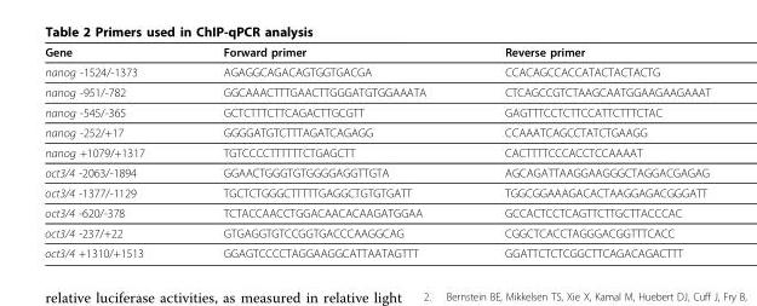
<table><thead><tr><td>Gene</td><td>Forward primer</td><td>Reverse primer</td></tr></thead><tbody><tr><td>nanog -1524/-1373</td><td>AGAGGCAGACAGTGGTGACGA</td><td>CCACAGCCACCATACTACTACTG</td></tr><tr><td>nanog -951/-782</td><td>GGCAAACTTTGAACTTGGGATGTGGAAATA</td><td>CTCAGCCGTCTAAGCAATGGAAGAAGAAAT</td></tr><tr><td>nanog -545/-365</td><td>GCTCTTTCTTCAGACTTGCGTT</td><td>GAGTTTCCTCTTCCATTCTTTCTAC</td></tr><tr><td>nanog -252/+17</td><td>GGGGATGTCTTTAGATCAGAGG</td><td>CCAAATCAGCCTATCTGAAGG</td></tr><tr><td>nanog +1079/+1317</td><td>TGTCCCCTTTTTTCTGAGCTT</td><td>CACTTTTCCCACCTCCAAAAT</td></tr><tr><td>oct3/4 -2063/-1894</td><td>GGAACTGGGTGTGGGGAGGTTGTA</td><td>AGCAGATTAAGGAAGGGCTAGGACGAGAG</td></tr><tr><td>oct3/4 -1377/-1129</td><td>TGCTCTGGGCTTTTTGAGGCTGTGTGATT</td><td>TGGCGGAAAGACACTAAGGAGACGGGATT</td></tr><tr><td>oct3/4 -620/-378</td><td>TCTACCAACCTGGACAACACAAGATGGAA</td><td>GCCACTCCTCAGTTCTTGCTTACCCAC</td></tr><tr><td>oct3/4 -237/+22</td><td>GTGAGGTGTCCGGTGACCCAAGGCAG</td><td>CGGCTCACCTAGGGACGGTTTCACC</td></tr><tr><td>oct3/4 +1310/+1513</td><td>GGAGTCCCCTAGGAAGGCATTAATAGTTT</td><td>GGATTCTCTCGGCTTCAGACAGACTTT</td></tr></tbody></table>